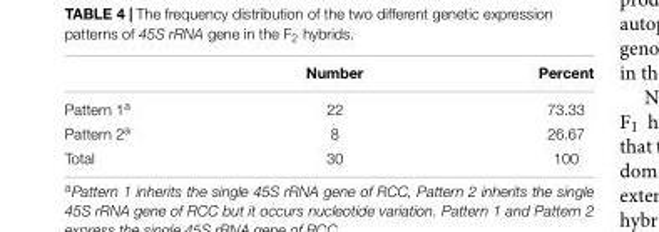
<table><thead><tr><td></td><td>Number</td><td>Percent</td></tr></thead><tbody><tr><td>Pattern 1<sup>a</sup></td><td>22</td><td>73.33</td></tr><tr><td>Pattern 2<sup>a</sup></td><td>8</td><td>26.67</td></tr><tr><td>Total</td><td>30</td><td>100</td></tr></tbody></table>